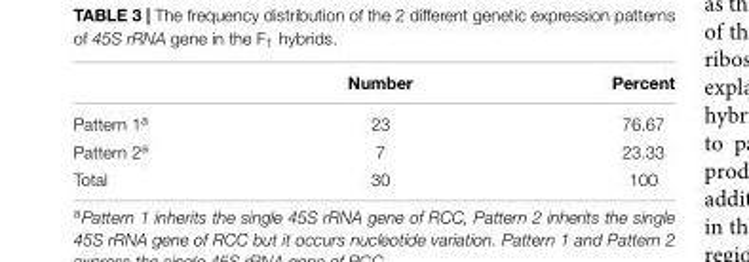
<table><thead><tr><td></td><td>Number</td><td>Percent</td></tr></thead><tbody><tr><td>Pattern 1<sup>a</sup></td><td>23</td><td>76.67</td></tr><tr><td>Pattern 2<sup>a</sup></td><td>7</td><td>23.33</td></tr><tr><td>Total</td><td>30</td><td>100</td></tr></tbody></table>